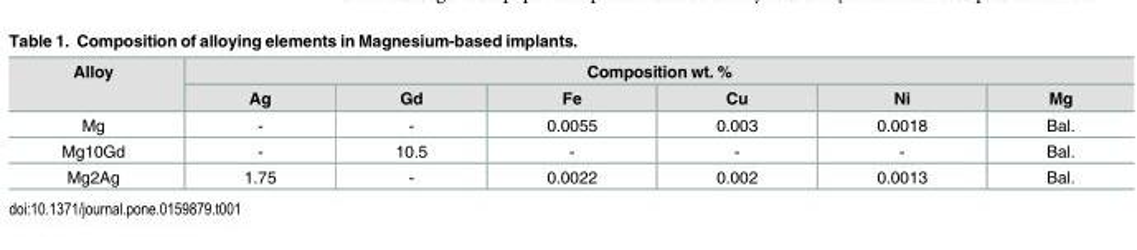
<table><thead><tr><td rowspan="2">Alloy</td><td colspan="6">Composition wt. %</td></tr><tr><td>Ag</td><td>Gd</td><td>Fe</td><td>Cu</td><td>Ni</td><td>Mg</td></tr></thead><tbody><tr><td>Mg</td><td>-</td><td>-</td><td>0.0055</td><td>0.003</td><td>0.0018</td><td>Bal.</td></tr><tr><td>Mg10Gd</td><td>-</td><td>10.5</td><td>-</td><td>-</td><td>-</td><td>Bal.</td></tr><tr><td>Mg2Ag</td><td>1.75</td><td>-</td><td>0.0022</td><td>0.002</td><td>0.0013</td><td>Bal.</td></tr></tbody></table>